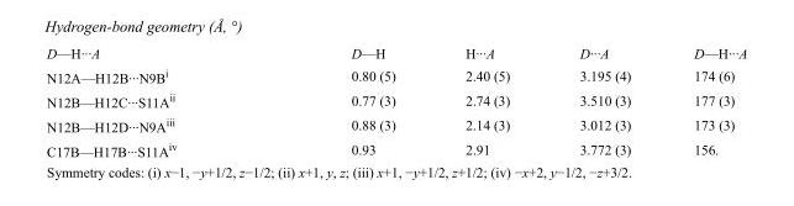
<table><tbody><tr><td>D—H···A</td><td>D—H</td><td>H···A</td><td>D···A</td><td>D—H···A</td></tr><tr><td>N12A—H12B···N9B<sup>i</sup></td><td>0.80 (5)</td><td>2.40 (5)</td><td>3.195 (4)</td><td>174 (6)</td></tr><tr><td>N12B—H12C···S11A<sup>ii</sup></td><td>0.77 (3)</td><td>2.74 (3)</td><td>3.510 (3)</td><td>177 (3)</td></tr><tr><td>N12B—H12D···N9A<sup>iii</sup></td><td>0.88 (3)</td><td>2.14 (3)</td><td>3.012 (3)</td><td>173 (3)</td></tr><tr><td>C17B—H17B···S11A<sup>iv</sup></td><td>0.93</td><td>2.91</td><td>3.772 (3)</td><td>156.</td></tr></tbody></table>